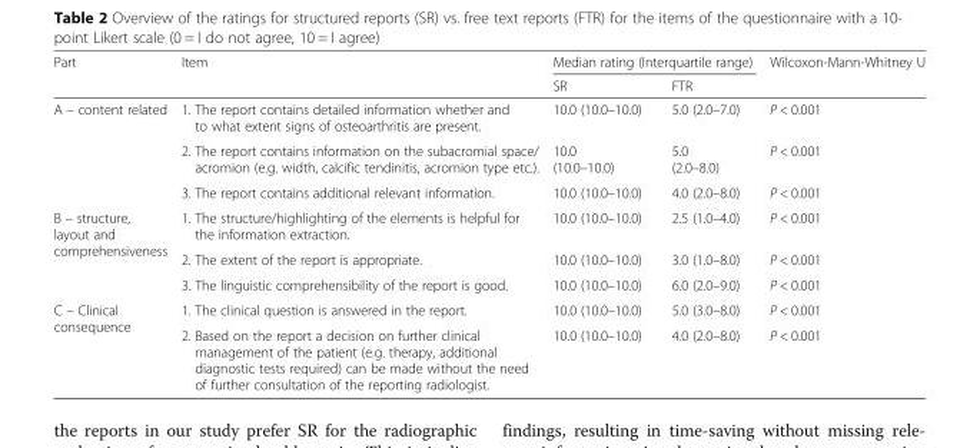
<table><thead><tr><td rowspan="2">Part</td><td rowspan="2">Item</td><td colspan="2">Median rating (Interquartile range)</td><td rowspan="2">Wilcoxon-Mann-Whitney U</td></tr><tr><td>SR</td><td>FTR</td></tr></thead><tbody><tr><td rowspan="3">A – content related</td><td>1. The report contains detailed information whether and to what extent signs of osteoarthritis are present.</td><td>10.0 (10.0–10.0)</td><td>5.0 (2.0–7.0)</td><td>P &lt; 0.001</td></tr><tr><td>2. The report contains information on the subacromial space/ acromion (e.g. width, calcific tendinitis, acromion type etc.).</td><td>10.0 (10.0–10.0)</td><td>5.0 (2.0–8.0)</td><td>P &lt; 0.001</td></tr><tr><td>3. The report contains additional relevant information.</td><td>10.0 (10.0–10.0)</td><td>4.0 (2.0–8.0)</td><td>P &lt; 0.001</td></tr><tr><td rowspan="3">B – structure, layout and comprehensiveness</td><td>1. The structure/highlighting of the elements is helpful for the information extraction.</td><td>10.0 (10.0–10.0)</td><td>2.5 (1.0–4.0)</td><td>P &lt; 0.001</td></tr><tr><td>2. The extent of the report is appropriate.</td><td>10.0 (10.0–10.0)</td><td>3.0 (1.0–8.0)</td><td>P &lt; 0.001</td></tr><tr><td>3. The linguistic comprehensibility of the report is good.</td><td>10.0 (10.0–10.0)</td><td>6.0 (2.0–9.0)</td><td>P &lt; 0.001</td></tr><tr><td rowspan="2">C – Clinical consequence</td><td>1. The clinical question is answered in the report.</td><td>10.0 (10.0–10.0)</td><td>5.0 (3.0–8.0)</td><td>P &lt; 0.001</td></tr><tr><td>2. Based on the report a decision on further clinical management of the patient (e.g. therapy, additional diagnostic tests required) can be made without the need of further consultation of the reporting radiologist.</td><td>10.0 (10.0–10.0)</td><td>4.0 (2.0–8.0)</td><td>P &lt; 0.001</td></tr></tbody></table>